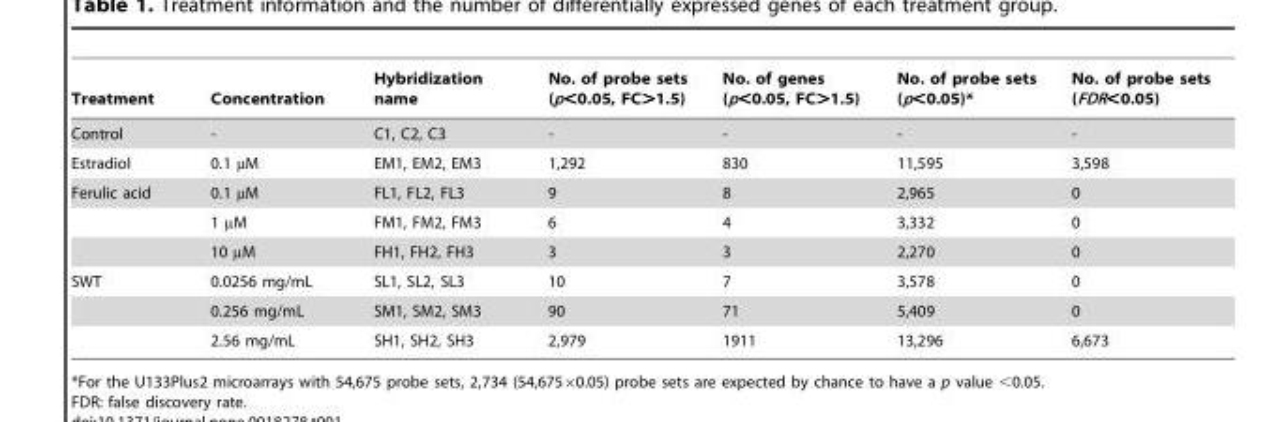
<table><thead><tr><td>Treatment</td><td>Concentration</td><td>Hybridization name</td><td>No. of probe sets (p&lt;0.05, FC&gt;1.5)</td><td>No. of genes (p&lt;0.05, FC&gt;1.5)</td><td>No. of probe sets (p&lt;0.05)*</td><td>No. of probe sets (FDR&lt;0.05)</td></tr></thead><tbody><tr><td>Control</td><td>-</td><td>C1, C2, C3</td><td>-</td><td>-</td><td>-</td><td>-</td></tr><tr><td>Estradiol</td><td>0.1 µM</td><td>EM1, EM2, EM3</td><td>1,292</td><td>830</td><td>11,595</td><td>3,598</td></tr><tr><td rowspan="3">Ferulic acid</td><td>0.1 µM</td><td>FL1, FL2, FL3</td><td>9</td><td>8</td><td>2,965</td><td>0</td></tr><tr><td>1 µM</td><td>FM1, FM2, FM3</td><td>6</td><td>4</td><td>3,332</td><td>0</td></tr><tr><td>10 µM</td><td>FH1, FH2, FH3</td><td>3</td><td>3</td><td>2,270</td><td>0</td></tr><tr><td rowspan="3">SWT</td><td>0.0256 mg/mL</td><td>SL1, SL2, SL3</td><td>10</td><td>7</td><td>3,578</td><td>0</td></tr><tr><td>0.256 mg/mL</td><td>SM1, SM2, SM3</td><td>90</td><td>71</td><td>5,409</td><td>0</td></tr><tr><td>2.56 mg/mL</td><td>SH1, SH2, SH3</td><td>2,979</td><td>1911</td><td>13,296</td><td>6,673</td></tr></tbody></table>